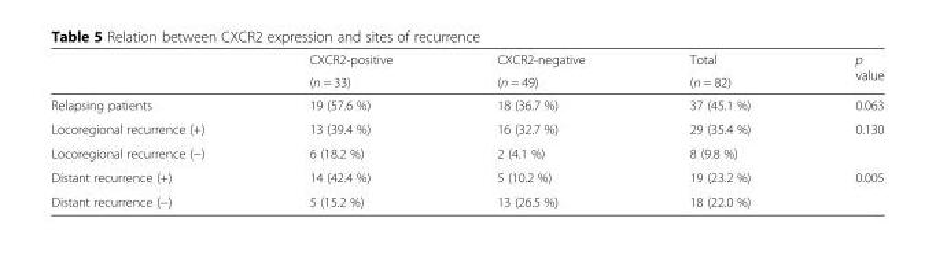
<table><thead><tr><td rowspan="2"></td><td rowspan="2">CXCR2-positive (n = 33)</td><td rowspan="2">CXCR2-negative (n = 49)</td><td rowspan="2">Total (n = 82)</td><td rowspan="2">p value</td></tr><tr></tr></thead><tbody><tr><td>Relapsing patients</td><td>19 (57.6 %)</td><td>18 (36.7 %)</td><td>37 (45.1 %)</td><td>0.063</td></tr><tr><td>Locoregional recurrence (+)</td><td>13 (39.4 %)</td><td>16 (32.7 %)</td><td>29 (35.4 %)</td><td>0.130</td></tr><tr><td>Locoregional recurrence (−)</td><td>6 (18.2 %)</td><td>2 (4.1 %)</td><td>8 (9.8 %)</td><td></td></tr><tr><td>Distant recurrence (+)</td><td>14 (42.4 %)</td><td>5 (10.2 %)</td><td>19 (23.2 %)</td><td>0.005</td></tr><tr><td>Distant recurrence (−)</td><td>5 (15.2 %)</td><td>13 (26.5 %)</td><td>18 (22.0 %)</td><td></td></tr></tbody></table>